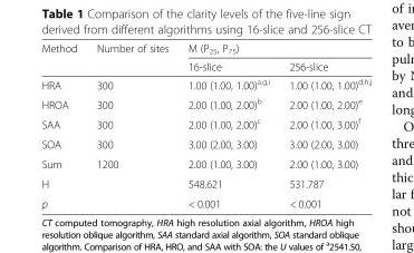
<table><thead><tr><td rowspan="2">Method</td><td rowspan="2">Number of sites</td><td colspan="2">M (P<sub>25</sub>, P<sub>75</sub>)</td></tr><tr><td>16-slice</td><td>256-slice</td></tr></thead><tbody><tr><td>HRA</td><td>300</td><td>1.00 (1.00, 1.00)<sup>a,g,i</sup></td><td>1.00 (1.00, 1.00)<sup>d,h,j</sup></td></tr><tr><td>HROA</td><td>300</td><td>2.00 (1.00, 2.00)<sup>b</sup></td><td>2.00 (1.00, 2.00)<sup>e</sup></td></tr><tr><td>SAA</td><td>300</td><td>2.00 (1.00, 2.00)<sup>c</sup></td><td>2.00 (1.00, 3.00)<sup>f</sup></td></tr><tr><td>SOA</td><td>300</td><td>3.00 (2.00, 3.00)</td><td>3.00 (2.00, 3.00)</td></tr><tr><td>Sum</td><td>1200</td><td>2.00 (1.00, 3.00)</td><td>2.00 (1.00, 3.00)</td></tr><tr><td colspan="2">H</td><td>548.621</td><td>531.787</td></tr><tr><td colspan="2">p</td><td>&lt; 0.001</td><td>&lt; 0.001</td></tr></tbody></table>